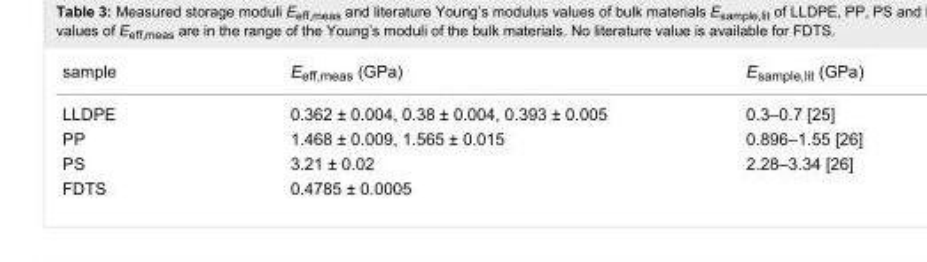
<table><tbody><tr><td>sample</td><td>E<sub>eff,meas</sub> (GPa)</td><td>E<sub>sample,lit</sub> (GPa)</td></tr><tr><td>LLDPE</td><td>0.362 ± 0.004, 0.38 ± 0.004, 0.393 ± 0.005</td><td>0.3–0.7 [25]</td></tr><tr><td>PP</td><td>1.468 ± 0.009, 1.565 ± 0.015</td><td>0.896–1.55 [26]</td></tr><tr><td>PS</td><td>3.21 ± 0.02</td><td>2.28–3.34 [26]</td></tr><tr><td>FDTS</td><td>0.4785 ± 0.0005</td><td></td></tr></tbody></table>